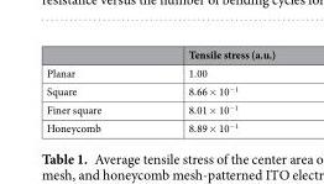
<table><thead><tr><td></td><td>Tensile stress (a.u.)</td></tr></thead><tbody><tr><td>Planar</td><td>1.00</td></tr><tr><td>Square</td><td>8.66 × 10<sup>−1</sup></td></tr><tr><td>Finer square</td><td>8.01 × 10<sup>−1</sup></td></tr><tr><td>Honeycomb</td><td>8.89 × 10<sup>−1</sup></td></tr></tbody></table>